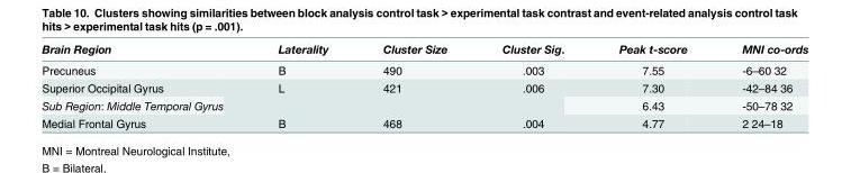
<table><thead><tr><td>Brain Region</td><td>Laterality</td><td>Cluster Size</td><td>Cluster Sig.</td><td>Peak t-score</td><td>MNI co-ords</td></tr></thead><tbody><tr><td>Precuneus</td><td>B</td><td>490</td><td>.003</td><td>7.55</td><td>-6–60 32</td></tr><tr><td>Superior Occipital Gyrus</td><td rowspan="2">L</td><td rowspan="2">421</td><td rowspan="2">.006</td><td>7.30</td><td>-42–84 36</td></tr><tr><td>Sub Region: Middle Temporal Gyrus</td><td>6.43</td><td>-50–78 32</td></tr><tr><td>Medial Frontal Gyrus</td><td>B</td><td>468</td><td>.004</td><td>4.77</td><td>2 24–18</td></tr></tbody></table>